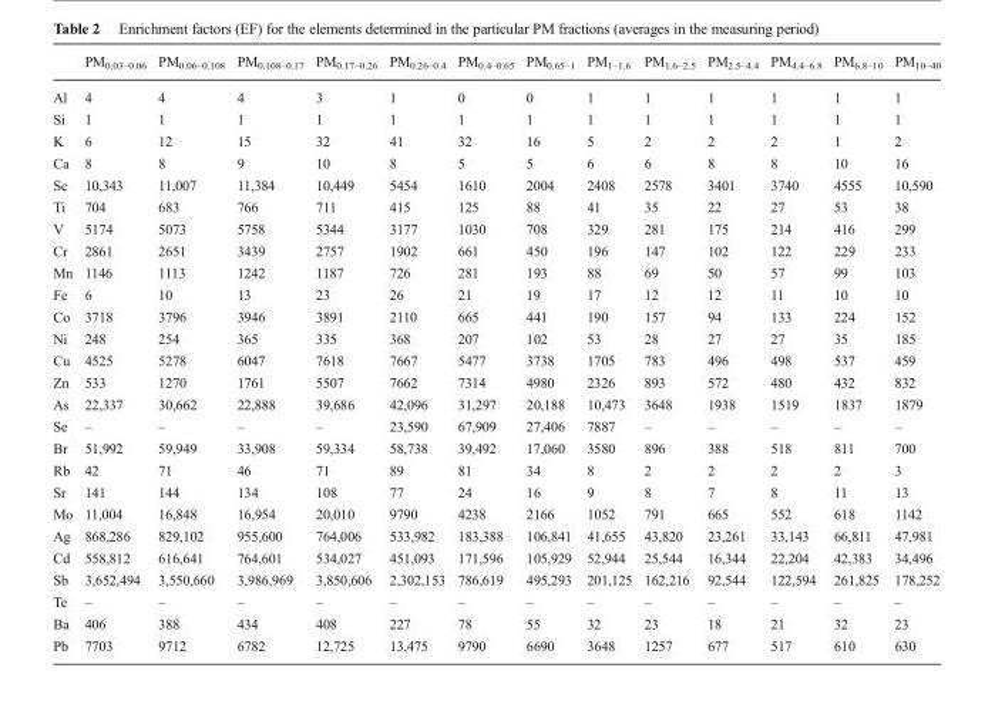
<table><thead><tr><td></td><td>PM<sub>0.03–0.06</sub></td><td>PM<sub>0.06–0.108</sub></td><td>PM<sub>0.108–0.17</sub></td><td>PM<sub>0.17–0.26</sub></td><td>PM<sub>0.26–0.4</sub></td><td>PM<sub>0.4–0.65</sub></td><td>PM<sub>0.65–1</sub></td><td>PM<sub>1–1.6</sub></td><td>PM<sub>1.6–2.5</sub></td><td>PM<sub>2.5–4.4</sub></td><td>PM<sub>4.4–6.8</sub></td><td>PM<sub>6.8–10</sub></td><td>PM<sub>10–40</sub></td></tr></thead><tbody><tr><td>Al</td><td>4</td><td>4</td><td>4</td><td>3</td><td>1</td><td>0</td><td>0</td><td>1</td><td>1</td><td>1</td><td>1</td><td>1</td><td>1</td></tr><tr><td>Si</td><td>1</td><td>1</td><td>1</td><td>1</td><td>1</td><td>1</td><td>1</td><td>1</td><td>1</td><td>1</td><td>1</td><td>1</td><td>1</td></tr><tr><td>K</td><td>6</td><td>12</td><td>15</td><td>32</td><td>41</td><td>32</td><td>16</td><td>5</td><td>2</td><td>2</td><td>2</td><td>1</td><td>2</td></tr><tr><td>Ca</td><td>8</td><td>8</td><td>9</td><td>10</td><td>8</td><td>5</td><td>5</td><td>6</td><td>6</td><td>8</td><td>8</td><td>10</td><td>16</td></tr><tr><td>Sc</td><td>10,343</td><td>11,007</td><td>11,384</td><td>10,449</td><td>5454</td><td>1610</td><td>2004</td><td>2408</td><td>2578</td><td>3401</td><td>3740</td><td>4555</td><td>10,590</td></tr><tr><td>Ti</td><td>704</td><td>683</td><td>766</td><td>711</td><td>415</td><td>125</td><td>88</td><td>41</td><td>35</td><td>22</td><td>27</td><td>53</td><td>38</td></tr><tr><td>V</td><td>5174</td><td>5073</td><td>5758</td><td>5344</td><td>3177</td><td>1030</td><td>708</td><td>329</td><td>281</td><td>175</td><td>214</td><td>416</td><td>299</td></tr><tr><td>Cr</td><td>2861</td><td>2651</td><td>3439</td><td>2757</td><td>1902</td><td>661</td><td>450</td><td>196</td><td>147</td><td>102</td><td>122</td><td>229</td><td>233</td></tr><tr><td>Mn</td><td>1146</td><td>1113</td><td>1242</td><td>1187</td><td>726</td><td>281</td><td>193</td><td>88</td><td>69</td><td>50</td><td>57</td><td>99</td><td>103</td></tr><tr><td>Fe</td><td>6</td><td>10</td><td>13</td><td>23</td><td>26</td><td>21</td><td>19</td><td>17</td><td>12</td><td>12</td><td>11</td><td>10</td><td>10</td></tr><tr><td>Co</td><td>3718</td><td>3796</td><td>3946</td><td>3891</td><td>2110</td><td>665</td><td>441</td><td>190</td><td>157</td><td>94</td><td>133</td><td>224</td><td>152</td></tr><tr><td>Ni</td><td>248</td><td>254</td><td>365</td><td>335</td><td>368</td><td>207</td><td>102</td><td>53</td><td>28</td><td>27</td><td>27</td><td>35</td><td>185</td></tr><tr><td>Cu</td><td>4525</td><td>5278</td><td>6047</td><td>7618</td><td>7667</td><td>5477</td><td>3738</td><td>1705</td><td>783</td><td>496</td><td>498</td><td>537</td><td>459</td></tr><tr><td>Zn</td><td>533</td><td>1270</td><td>1761</td><td>5507</td><td>7662</td><td>7314</td><td>4980</td><td>2326</td><td>893</td><td>572</td><td>480</td><td>432</td><td>832</td></tr><tr><td>As</td><td>22,337</td><td>30,662</td><td>22,888</td><td>39,686</td><td>42,096</td><td>31,297</td><td>20,188</td><td>10,473</td><td>3648</td><td>1938</td><td>1519</td><td>1837</td><td>1879</td></tr><tr><td>Se</td><td>–</td><td>–</td><td>–</td><td>–</td><td>23,590</td><td>67,909</td><td>27,406</td><td>7887</td><td>–</td><td>–</td><td>–</td><td>–</td><td>–</td></tr><tr><td>Br</td><td>51,992</td><td>59,949</td><td>33,908</td><td>59,334</td><td>58,738</td><td>39,492</td><td>17,060</td><td>3580</td><td>896</td><td>388</td><td>518</td><td>811</td><td>700</td></tr><tr><td>Rb</td><td>42</td><td>71</td><td>46</td><td>71</td><td>89</td><td>81</td><td>34</td><td>8</td><td>2</td><td>2</td><td>2</td><td>2</td><td>3</td></tr><tr><td>Sr</td><td>141</td><td>144</td><td>134</td><td>108</td><td>77</td><td>24</td><td>16</td><td>9</td><td>8</td><td>7</td><td>8</td><td>11</td><td>13</td></tr><tr><td>Mo</td><td>11,004</td><td>16,848</td><td>16,954</td><td>20,010</td><td>9790</td><td>4238</td><td>2166</td><td>1052</td><td>791</td><td>665</td><td>552</td><td>618</td><td>1142</td></tr><tr><td>Ag</td><td>868,286</td><td>829,102</td><td>955,600</td><td>764,006</td><td>533,982</td><td>183,388</td><td>106,841</td><td>41,655</td><td>43,820</td><td>23,261</td><td>33,143</td><td>66,811</td><td>47,981</td></tr><tr><td>Cd</td><td>558,812</td><td>616,641</td><td>764,601</td><td>534,027</td><td>451,093</td><td>171,596</td><td>105,929</td><td>52,944</td><td>25,544</td><td>16,344</td><td>22,204</td><td>42,383</td><td>34,496</td></tr><tr><td>Sb</td><td>3,652,494</td><td>3,550,660</td><td>3,986,969</td><td>3,850,606</td><td>2,302,153</td><td>786,619</td><td>495,293</td><td>201,125</td><td>162,216</td><td>92,544</td><td>122,594</td><td>261,825</td><td>178,252</td></tr><tr><td>Te</td><td>–</td><td>–</td><td>–</td><td>–</td><td>–</td><td>–</td><td>–</td><td>–</td><td>–</td><td>–</td><td>–</td><td>–</td><td>–</td></tr><tr><td>Ba</td><td>406</td><td>388</td><td>434</td><td>408</td><td>227</td><td>78</td><td>55</td><td>32</td><td>23</td><td>18</td><td>21</td><td>32</td><td>23</td></tr><tr><td>Pb</td><td>7703</td><td>9712</td><td>6782</td><td>12,725</td><td>13,475</td><td>9790</td><td>6690</td><td>3648</td><td>1257</td><td>677</td><td>517</td><td>610</td><td>630</td></tr></tbody></table>